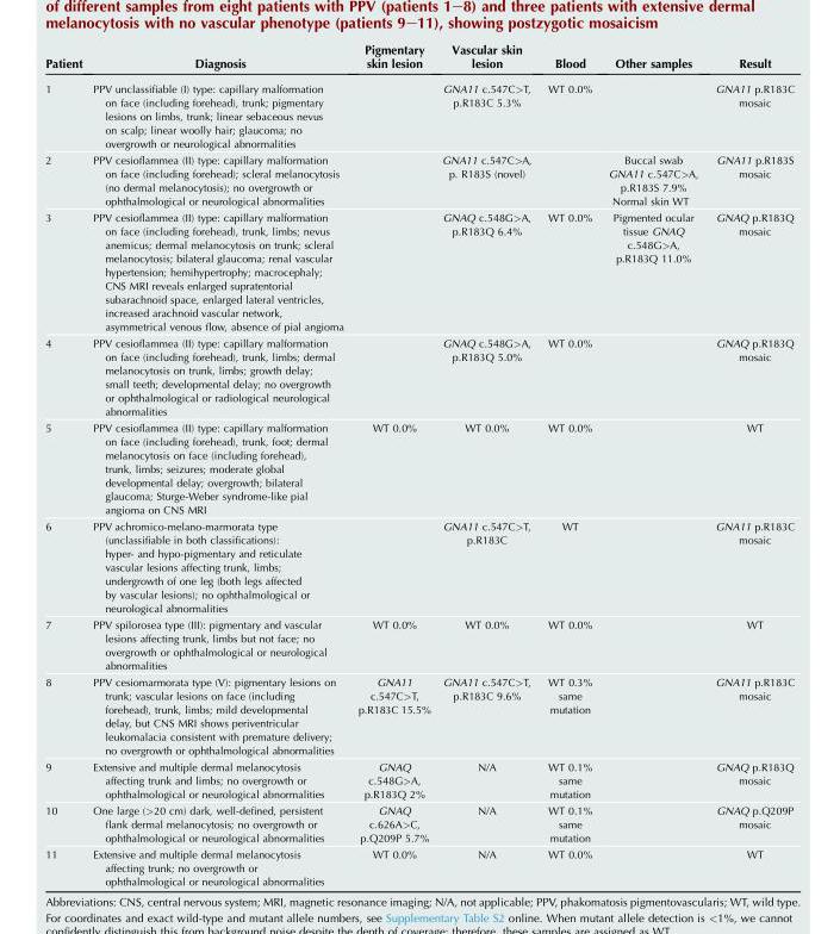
<table><thead><tr><td>Patient</td><td>Diagnosis</td><td>Pigmentary skin lesion</td><td>Vascular skin lesion</td><td>Blood</td><td>Other samples</td><td>Result</td></tr></thead><tbody><tr><td>1</td><td>PPV unclassifiable (I) type: capillary malformation on face (including forehead), trunk; pigmentary lesions on limbs, trunk; linear sebaceous nevus on scalp; linear woolly hair; glaucoma; no overgrowth or neurological abnormalities</td><td></td><td>GNA11 c.547C&gt;T, p.R183C 5.3%</td><td>WT 0.0%</td><td></td><td>GNA11 p.R183C mosaic</td></tr><tr><td>2</td><td>PPV cesioflammea (II) type: capillary malformation on face (including forehead); scleral melanocytosis (no dermal melanocytosis); no overgrowth or ophthalmological or neurological abnormalities</td><td></td><td>GNA11 c.547C&gt;A, p. R183S (novel)</td><td></td><td>Buccal swab GNA11 c.547C&gt;A, p.R183S 7.9% Normal skin WT</td><td>GNA11 p.R183S mosaic</td></tr><tr><td>3</td><td>PPV cesioflammea (II) type: capillary malformation on face (including forehead), trunk, limbs; nevus anemicus; dermal melanocytosis on trunk; scleral melanocytosis; bilateral glaucoma; renal vascular hypertension; hemihypertrophy; macrocephaly; CNS MRI reveals enlarged supratentorial subarachnoid space, enlarged lateral ventricles, increased arachnoid vascular network, asymmetrical venous flow, absence of pial angioma</td><td></td><td>GNAQ c.548G&gt;A, p.R183Q 6.4%</td><td>WT 0.0%</td><td>Pigmented ocular tissue GNAQ c.548G&gt;A, p.R183Q 11.0%</td><td>GNAQ p.R183Q mosaic</td></tr><tr><td>4</td><td>PPV cesioflammea (II) type: capillary malformation on face (including forehead), trunk, limbs; dermal melanocytosis on trunk, limbs; growth delay; small teeth; developmental delay; no overgrowth or ophthalmological or radiological neurological abnormalities</td><td></td><td>GNAQ c.548G&gt;A, p.R183Q 5.0%</td><td>WT 0.0%</td><td></td><td>GNAQ p.R183Q mosaic</td></tr><tr><td>5</td><td>PPV cesioflammea (II) type: capillary malformation on face (including forehead), trunk, foot; dermal melanocytosis on face (including forehead), trunk, limbs; seizures; moderate global developmental delay; overgrowth; bilateral glaucoma; Sturge-Weber syndrome-like pial angioma on CNS MRI</td><td>WT 0.0%</td><td>WT 0.0%</td><td>WT 0.0%</td><td></td><td>WT</td></tr><tr><td>6</td><td>PPV achromico-melano-marmorata type (unclassifiable in both classifications): hyper- and hypo-pigmentary and reticulate vascular lesions affecting trunk, limbs; undergrowth of one leg (both legs affected by vascular lesions); no ophthalmological or neurological abnormalities</td><td></td><td>GNA11 c.547C&gt;T, p.R183C</td><td>WT</td><td></td><td>GNA11 p.R183C mosaic</td></tr><tr><td>7</td><td>PPV spilorosea type (III): pigmentary and vascular lesions affecting trunk, limbs but not face; no overgrowth or ophthalmological or neurological abnormalities</td><td>WT 0.0%</td><td>WT 0.0%</td><td>WT 0.0%</td><td></td><td>WT</td></tr><tr><td>8</td><td>PPV cesiomarmorata type (V): pigmentary lesions on trunk; vascular lesions on face (including forehead), trunk, limbs; mild developmental delay, but CNS MRI shows periventricular leukomalacia consistent with premature delivery; no overgrowth or ophthalmological abnormalities</td><td>GNA11 c.547C&gt;T, p.R183C 15.5%</td><td>GNA11 c.547C&gt;T, p.R183C 9.6%</td><td>WT 0.3% same mutation</td><td></td><td>GNA11 p.R183C mosaic</td></tr><tr><td>9</td><td>Extensive and multiple dermal melanocytosis affecting trunk and limbs; no overgrowth or ophthalmological or neurological abnormalities</td><td>GNAQ c.548G&gt;A, p.R183Q 2%</td><td>N/A</td><td>WT 0.1% same mutation</td><td></td><td>GNAQ p.R183Q mosaic</td></tr><tr><td>10</td><td>One large (&gt;20 cm) dark, well-defined, persistent flank dermal melanocytosis; no overgrowth or ophthalmological or neurological abnormalities</td><td>GNAQ c.626A&gt;C, p.Q209P 5.7%</td><td>N/A</td><td>WT 0.1% same mutation</td><td></td><td>GNAQ p.Q209P mosaic</td></tr><tr><td>11</td><td>Extensive and multiple dermal melanocytosis affecting trunk; no overgrowth or ophthalmological or neurological abnormalities</td><td>WT 0.0%</td><td>N/A</td><td>WT 0.0%</td><td></td><td>WT</td></tr></tbody></table>